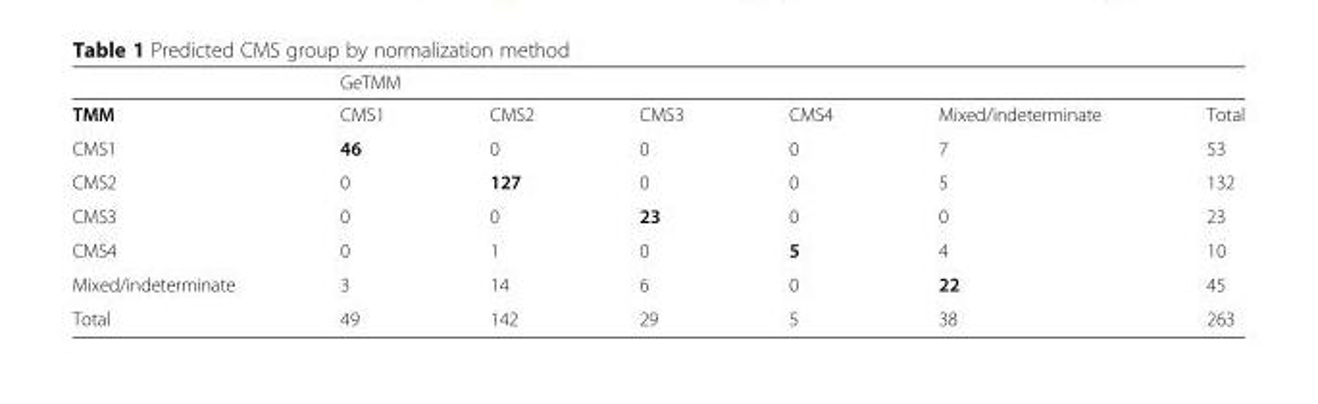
<table><thead><tr><td rowspan="2">TMM</td><td colspan="5">GeTMM</td><td rowspan="2">Total</td></tr><tr><td>CMS1</td><td>CMS2</td><td>CMS3</td><td>CMS4</td><td>Mixed/indeterminate</td></tr></thead><tbody><tr><td>CMS1</td><td>46</td><td>0</td><td>0</td><td>0</td><td>7</td><td>53</td></tr><tr><td>CMS2</td><td>0</td><td>127</td><td>0</td><td>0</td><td>5</td><td>132</td></tr><tr><td>CMS3</td><td>0</td><td>0</td><td>23</td><td>0</td><td>0</td><td>23</td></tr><tr><td>CMS4</td><td>0</td><td>1</td><td>0</td><td>5</td><td>4</td><td>10</td></tr><tr><td>Mixed/indeterminate</td><td>3</td><td>14</td><td>6</td><td>0</td><td>22</td><td>45</td></tr><tr><td>Total</td><td>49</td><td>142</td><td>29</td><td>5</td><td>38</td><td>263</td></tr></tbody></table>